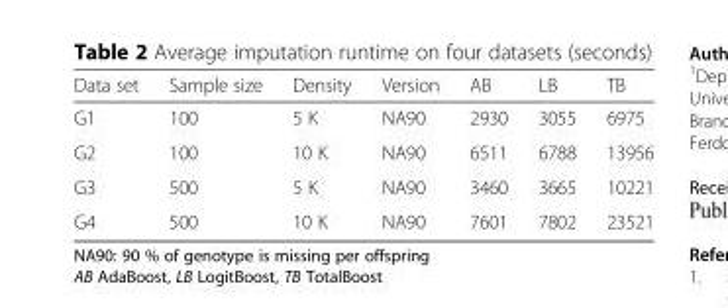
<table><thead><tr><td>Data set</td><td>Sample size</td><td>Density</td><td>Version</td><td>AB</td><td>LB</td><td>TB</td></tr></thead><tbody><tr><td>G1</td><td>100</td><td>5 K</td><td>NA90</td><td>2930</td><td>3055</td><td>6975</td></tr><tr><td>G2</td><td>100</td><td>10 K</td><td>NA90</td><td>6511</td><td>6788</td><td>13956</td></tr><tr><td>G3</td><td>500</td><td>5 K</td><td>NA90</td><td>3460</td><td>3665</td><td>10221</td></tr><tr><td>G4</td><td>500</td><td>10 K</td><td>NA90</td><td>7601</td><td>7802</td><td>23521</td></tr></tbody></table>